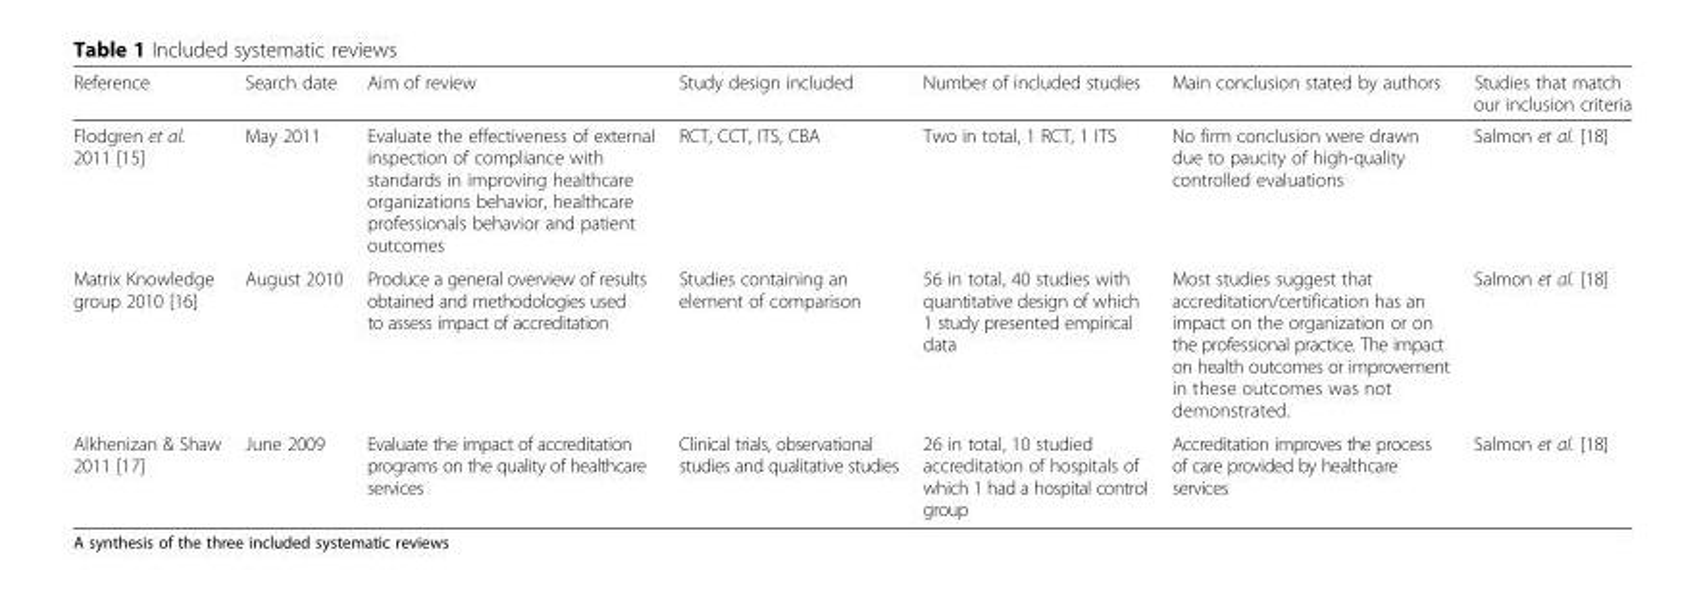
<table><thead><tr><td>Reference</td><td>Search date</td><td>Aim of review</td><td>Study design included</td><td>Number of included studies</td><td>Main conclusion stated by authors</td><td>Studies that match our inclusion criteria</td></tr></thead><tbody><tr><td>Flodgren et al. 2011 [15]</td><td>May 2011</td><td>Evaluate the effectiveness of external inspection of compliance with standards in improving healthcare organizations behavior, healthcare professionals behavior and patient outcomes</td><td>RCT, CCT, ITS, CBA</td><td>Two in total, 1 RCT, 1 ITS</td><td>No firm conclusion were drawn due to paucity of high-quality controlled evaluations</td><td>Salmon et al. [18]</td></tr><tr><td>Matrix Knowledge group 2010 [16]</td><td>August 2010</td><td>Produce a general overview of results obtained and methodologies used to assess impact of accreditation</td><td>Studies containing an element of comparison</td><td>56 in total, 40 studies with quantitative design of which 1 study presented empirical data</td><td>Most studies suggest that accreditation/certification has an impact on the organization or on the professional practice. The impact on health outcomes or improvement in these outcomes was not demonstrated.</td><td>Salmon et al. [18]</td></tr><tr><td>Alkhenizan &amp; Shaw 2011 [17]</td><td>June 2009</td><td>Evaluate the impact of accreditation programs on the quality of healthcare services</td><td>Clinical trials, observational studies and qualitative studies</td><td>26 in total, 10 studied accreditation of hospitals of which 1 had a hospital control group</td><td>Accreditation improves the process of care provided by healthcare services</td><td>Salmon et al. [18]</td></tr></tbody></table>